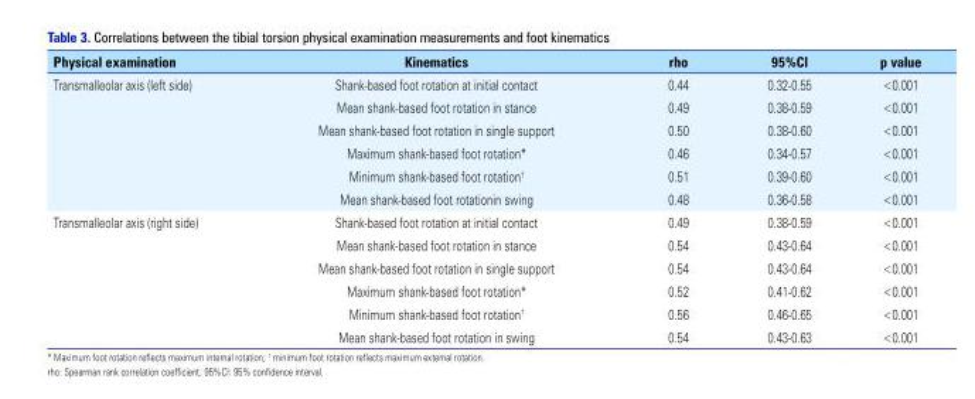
<table><thead><tr><td>Physical examination</td><td>Kinematics</td><td>rho</td><td>95%CI</td><td>p value</td></tr></thead><tbody><tr><td rowspan="6">Transmalleolar axis (left side)</td><td>Shank-based foot rotation at initial contact</td><td>0.44</td><td>0.32-0.55</td><td>&lt;0.001</td></tr><tr><td>Mean shank-based foot rotation in stance</td><td>0.49</td><td>0.38-0.59</td><td>&lt;0.001</td></tr><tr><td>Mean shank-based foot rotation in single support</td><td>0.50</td><td>0.38-0.60</td><td>&lt;0.001</td></tr><tr><td>Maximum shank-based foot rotation*</td><td>0.46</td><td>0.34-0.57</td><td>&lt;0.001</td></tr><tr><td>Minimum shank-based foot rotation†</td><td>0.51</td><td>0.39-0.60</td><td>&lt;0.001</td></tr><tr><td>Mean shank-based foot rotationin swing</td><td>0.48</td><td>0.36-0.58</td><td>&lt;0.001</td></tr><tr><td rowspan="6">Transmalleolar axis (right side)</td><td>Shank-based foot rotation at initial contact</td><td>0.49</td><td>0.38-0.59</td><td>&lt;0.001</td></tr><tr><td>Mean shank-based foot rotation in stance</td><td>0.54</td><td>0.43-0.64</td><td>&lt;0.001</td></tr><tr><td>Mean shank-based foot rotation in single support</td><td>0.54</td><td>0.43-0.64</td><td>&lt;0.001</td></tr><tr><td>Maximum shank-based foot rotation*</td><td>0.52</td><td>0.41-0.62</td><td>&lt;0.001</td></tr><tr><td>Minimum shank-based foot rotation†</td><td>0.56</td><td>0.46-0.65</td><td>&lt;0.001</td></tr><tr><td>Mean shank-based foot rotation in swing</td><td>0.54</td><td>0.43-0.63</td><td>&lt;0.001</td></tr></tbody></table>